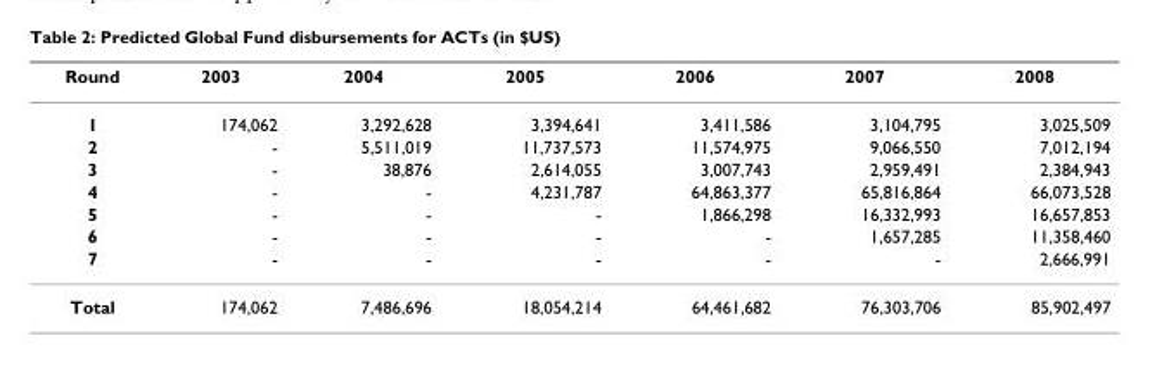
<table><thead><tr><td>Round</td><td>2003</td><td>2004</td><td>2005</td><td>2006</td><td>2007</td><td>2008</td></tr></thead><tbody><tr><td>1</td><td>174,062</td><td>3,292,628</td><td>3,394,641</td><td>3,411,586</td><td>3,104,795</td><td>3,025,509</td></tr><tr><td>2</td><td>-</td><td>5,511,019</td><td>11,737,573</td><td>11,574,975</td><td>9,066,550</td><td>7,012,194</td></tr><tr><td>3</td><td>-</td><td>38,876</td><td>2,614,055</td><td>3,007,743</td><td>2,959,491</td><td>2,384,943</td></tr><tr><td>4</td><td>-</td><td>-</td><td>4,231,787</td><td>64,863,377</td><td>65,816,864</td><td>66,073,528</td></tr><tr><td>5</td><td>-</td><td>-</td><td>-</td><td>1,866,298</td><td>16,332,993</td><td>16,657,853</td></tr><tr><td>6</td><td>-</td><td>-</td><td>-</td><td>-</td><td>1,657,285</td><td>11,358,460</td></tr><tr><td>7</td><td>-</td><td>-</td><td>-</td><td>-</td><td>-</td><td>2,666,991</td></tr><tr><td>Total</td><td>174,062</td><td>7,486,696</td><td>18,054,214</td><td>64,461,682</td><td>76,303,706</td><td>85,902,497</td></tr></tbody></table>